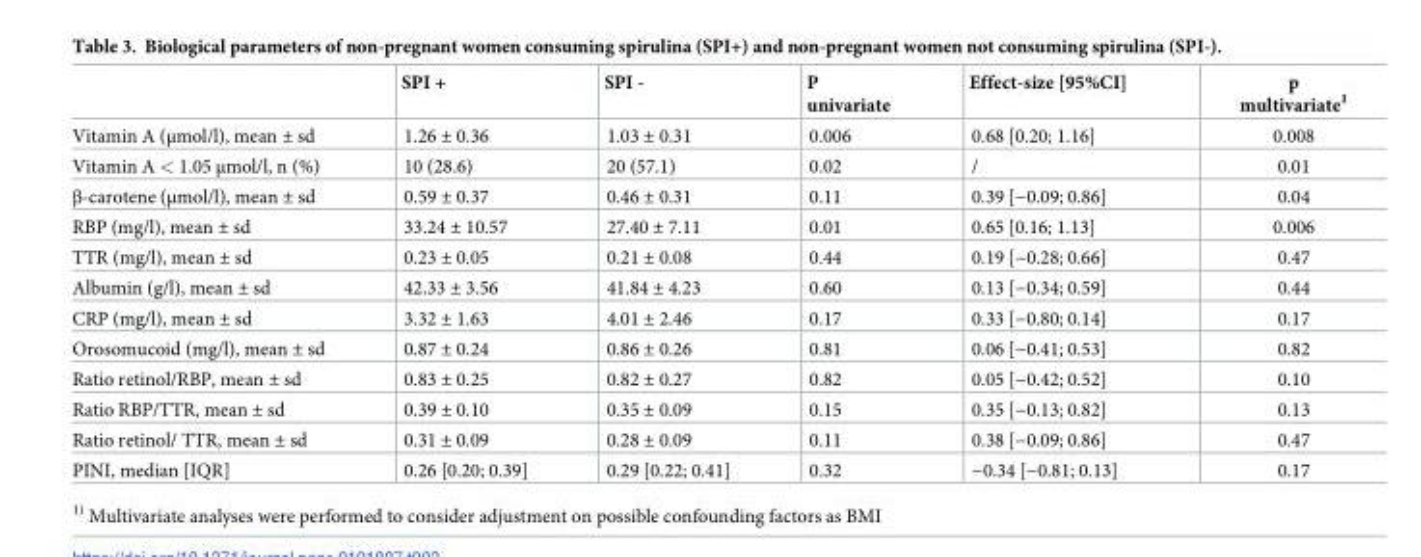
<table><thead><tr><td></td><td>SPI +</td><td>SPI -</td><td>P univariate</td><td>Effect-size [95%CI]</td><td>p multivariate<sup>1</sup></td></tr></thead><tbody><tr><td>Vitamin A (μmol/l), mean ± sd</td><td>1.26 ± 0.36</td><td>1.03 ± 0.31</td><td>0.006</td><td>0.68 [0.20; 1.16]</td><td>0.008</td></tr><tr><td>Vitamin A &lt; 1.05 μmol/l, n (%)</td><td>10 (28.6)</td><td>20 (57.1)</td><td>0.02</td><td>/</td><td>0.01</td></tr><tr><td>β-carotene (μmol/l), mean ± sd</td><td>0.59 ± 0.37</td><td>0.46 ± 0.31</td><td>0.11</td><td>0.39 [−0.09; 0.86]</td><td>0.04</td></tr><tr><td>RBP (mg/l), mean ± sd</td><td>33.24 ± 10.57</td><td>27.40 ± 7.11</td><td>0.01</td><td>0.65 [0.16; 1.13]</td><td>0.006</td></tr><tr><td>TTR (mg/l), mean ± sd</td><td>0.23 ± 0.05</td><td>0.21 ± 0.08</td><td>0.44</td><td>0.19 [−0.28; 0.66]</td><td>0.47</td></tr><tr><td>Albumin (g/l), mean ± sd</td><td>42.33 ± 3.56</td><td>41.84 ± 4.23</td><td>0.60</td><td>0.13 [−0.34; 0.59]</td><td>0.44</td></tr><tr><td>CRP (mg/l), mean ± sd</td><td>3.32 ± 1.63</td><td>4.01 ± 2.46</td><td>0.17</td><td>0.33 [−0.80; 0.14]</td><td>0.17</td></tr><tr><td>Orosomucoid (mg/l), mean ± sd</td><td>0.87 ± 0.24</td><td>0.86 ± 0.26</td><td>0.81</td><td>0.06 [−0.41; 0.53]</td><td>0.82</td></tr><tr><td>Ratio retinol/RBP, mean ± sd</td><td>0.83 ± 0.25</td><td>0.82 ± 0.27</td><td>0.82</td><td>0.05 [−0.42; 0.52]</td><td>0.10</td></tr><tr><td>Ratio RBP/TTR, mean ± sd</td><td>0.39 ± 0.10</td><td>0.35 ± 0.09</td><td>0.15</td><td>0.35 [−0.13; 0.82]</td><td>0.13</td></tr><tr><td>Ratio retinol/ TTR, mean ± sd</td><td>0.31 ± 0.09</td><td>0.28 ± 0.09</td><td>0.11</td><td>0.38 [−0.09; 0.86]</td><td>0.47</td></tr><tr><td>PINI, median [IQR]</td><td>0.26 [0.20; 0.39]</td><td>0.29 [0.22; 0.41]</td><td>0.32</td><td>−0.34 [−0.81; 0.13]</td><td>0.17</td></tr></tbody></table>